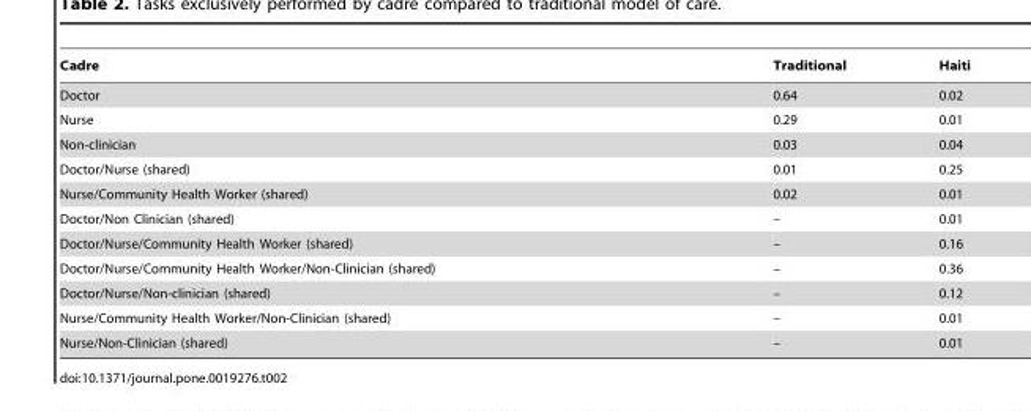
<table><thead><tr><td>Cadre</td><td>Traditional</td><td>Haiti</td></tr></thead><tbody><tr><td>Doctor</td><td>0.64</td><td>0.02</td></tr><tr><td>Nurse</td><td>0.29</td><td>0.01</td></tr><tr><td>Non-clinician</td><td>0.03</td><td>0.04</td></tr><tr><td>Doctor/Nurse (shared)</td><td>0.01</td><td>0.25</td></tr><tr><td>Nurse/Community Health Worker (shared)</td><td>0.02</td><td>0.01</td></tr><tr><td>Doctor/Non Clinician (shared)</td><td>–</td><td>0.01</td></tr><tr><td>Doctor/Nurse/Community Health Worker (shared)</td><td>–</td><td>0.16</td></tr><tr><td>Doctor/Nurse/Community Health Worker/Non-Clinician (shared)</td><td>–</td><td>0.36</td></tr><tr><td>Doctor/Nurse/Non-clinician (shared)</td><td>–</td><td>0.12</td></tr><tr><td>Nurse/Community Health Worker/Non-Clinician (shared)</td><td>–</td><td>0.01</td></tr><tr><td>Nurse/Non-Clinician (shared)</td><td>–</td><td>0.01</td></tr></tbody></table>